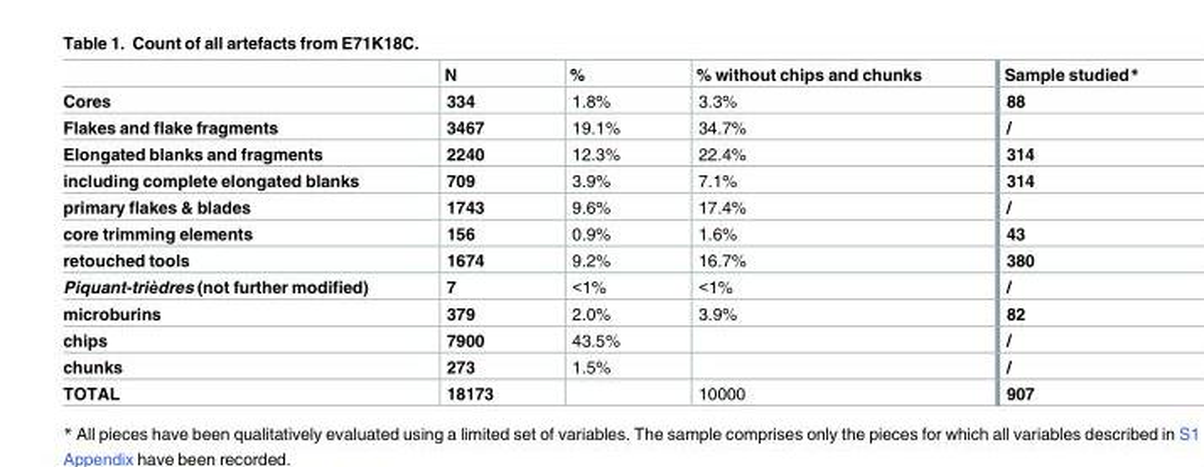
<table><thead><tr><td></td><td>N</td><td>%</td><td>% without chips and chunks</td><td>Sample studied*</td></tr></thead><tbody><tr><td>Cores</td><td>334</td><td>1.8%</td><td>3.3%</td><td>88</td></tr><tr><td>Flakes and flake fragments</td><td>3467</td><td>19.1%</td><td>34.7%</td><td>/</td></tr><tr><td>Elongated blanks and fragments</td><td>2240</td><td>12.3%</td><td>22.4%</td><td>314</td></tr><tr><td>including complete elongated blanks</td><td>709</td><td>3.9%</td><td>7.1%</td><td>314</td></tr><tr><td>primary flakes &amp; blades</td><td>1743</td><td>9.6%</td><td>17.4%</td><td>/</td></tr><tr><td>core trimming elements</td><td>156</td><td>0.9%</td><td>1.6%</td><td>43</td></tr><tr><td>retouched tools</td><td>1674</td><td>9.2%</td><td>16.7%</td><td>380</td></tr><tr><td>Piquant-trièdres (not further modified)</td><td>7</td><td>&lt;1%</td><td>&lt;1%</td><td>/</td></tr><tr><td>microburins</td><td>379</td><td>2.0%</td><td>3.9%</td><td>82</td></tr><tr><td>chips</td><td>7900</td><td>43.5%</td><td></td><td>/</td></tr><tr><td>chunks</td><td>273</td><td>1.5%</td><td></td><td>/</td></tr><tr><td>TOTAL</td><td>18173</td><td></td><td>10000</td><td>907</td></tr></tbody></table>